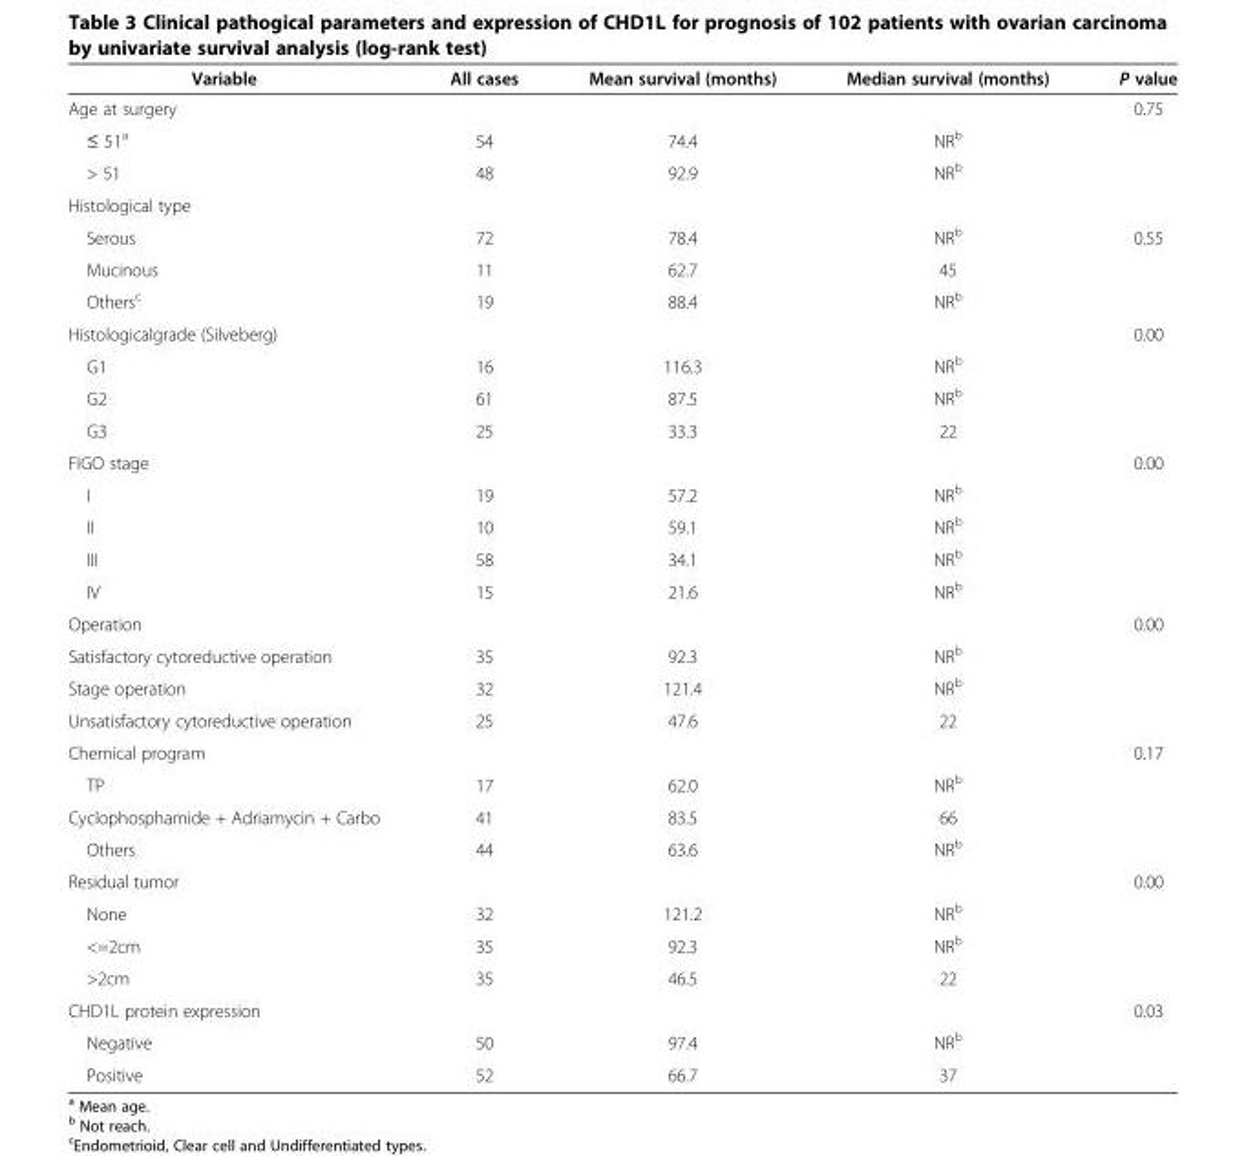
<table><thead><tr><td>Variable</td><td>All cases</td><td>Mean survival (months)</td><td>Median survival (months)</td><td>P value</td></tr></thead><tbody><tr><td>Age at surgery</td><td></td><td></td><td></td><td>0.75</td></tr><tr><td>≤ 51<sup>a</sup></td><td>54</td><td>74.4</td><td>NR<sup>b</sup></td><td></td></tr><tr><td>&gt; 51</td><td>48</td><td>92.9</td><td>NR<sup>b</sup></td><td></td></tr><tr><td colspan="5">Histological type</td></tr><tr><td>Serous</td><td>72</td><td>78.4</td><td>NR<sup>b</sup></td><td>0.55</td></tr><tr><td>Mucinous</td><td>11</td><td>62.7</td><td>45</td><td></td></tr><tr><td>Others<sup>c</sup></td><td>19</td><td>88.4</td><td>NR<sup>b</sup></td><td></td></tr><tr><td>Histologicalgrade (Silveberg)</td><td></td><td></td><td></td><td>0.00</td></tr><tr><td>G1</td><td>16</td><td>116.3</td><td>NR<sup>b</sup></td><td></td></tr><tr><td>G2</td><td>61</td><td>87.5</td><td>NR<sup>b</sup></td><td></td></tr><tr><td>G3</td><td>25</td><td>33.3</td><td>22</td><td></td></tr><tr><td>FIGO stage</td><td></td><td></td><td></td><td>0.00</td></tr><tr><td>I</td><td>19</td><td>57.2</td><td>NR<sup>b</sup></td><td></td></tr><tr><td>II</td><td>10</td><td>59.1</td><td>NR<sup>b</sup></td><td></td></tr><tr><td>III</td><td>58</td><td>34.1</td><td>NR<sup>b</sup></td><td></td></tr><tr><td>IV</td><td>15</td><td>21.6</td><td>NR<sup>b</sup></td><td></td></tr><tr><td>Operation</td><td></td><td></td><td></td><td>0.00</td></tr><tr><td>Satisfactory cytoreductive operation</td><td>35</td><td>92.3</td><td>NR<sup>b</sup></td><td></td></tr><tr><td>Stage operation</td><td>32</td><td>121.4</td><td>NR<sup>b</sup></td><td></td></tr><tr><td>Unsatisfactory cytoreductive operation</td><td>25</td><td>47.6</td><td>22</td><td></td></tr><tr><td>Chemical program</td><td></td><td></td><td></td><td>0.17</td></tr><tr><td>TP</td><td>17</td><td>62.0</td><td>NR<sup>b</sup></td><td></td></tr><tr><td>Cyclophosphamide + Adriamycin + Carbo</td><td>41</td><td>83.5</td><td>66</td><td></td></tr><tr><td>Others</td><td>44</td><td>63.6</td><td>NR<sup>b</sup></td><td></td></tr><tr><td>Residual tumor</td><td></td><td></td><td></td><td>0.00</td></tr><tr><td>None</td><td>32</td><td>121.2</td><td>NR<sup>b</sup></td><td></td></tr><tr><td>&lt;=2cm</td><td>35</td><td>92.3</td><td>NR<sup>b</sup></td><td></td></tr><tr><td>&gt;2cm</td><td>35</td><td>46.5</td><td>22</td><td></td></tr><tr><td>CHD1L protein expression</td><td></td><td></td><td></td><td>0.03</td></tr><tr><td>Negative</td><td>50</td><td>97.4</td><td>NR<sup>b</sup></td><td></td></tr><tr><td>Positive</td><td>52</td><td>66.7</td><td>37</td><td></td></tr></tbody></table>